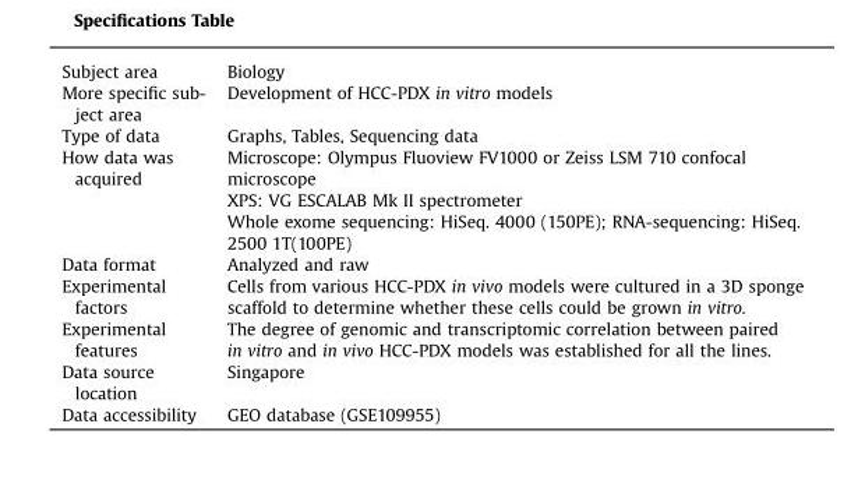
<table><tbody><tr><td>Subject area</td><td>Biology</td></tr><tr><td>More specific sub- ject area</td><td>Development of HCC-PDX in vitro models</td></tr><tr><td>Type of data</td><td>Graphs, Tables, Sequencing data</td></tr><tr><td rowspan="3">How data was acquired</td><td>Microscope: Olympus Fluoview FV1000 or Zeiss LSM 710 confocal microscope</td></tr><tr><td>XPS: VG ESCALAB Mk II spectrometer</td></tr><tr><td>Whole exome sequencing: HiSeq. 4000 (150PE); RNA-sequencing: HiSeq. 2500 1T(100PE)</td></tr><tr><td>Data format</td><td>Analyzed and raw</td></tr><tr><td>Experimental factors</td><td>Cells from various HCC-PDX in vivo models were cultured in a 3D sponge scaffold to determine whether these cells could be grown in vitro.</td></tr><tr><td>Experimental features</td><td>The degree of genomic and transcriptomic correlation between paired in vitro and in vivo HCC-PDX models was established for all the lines.</td></tr><tr><td>Data source location</td><td>Singapore</td></tr><tr><td>Data accessibility</td><td>GEO database (GSE109955)</td></tr></tbody></table>